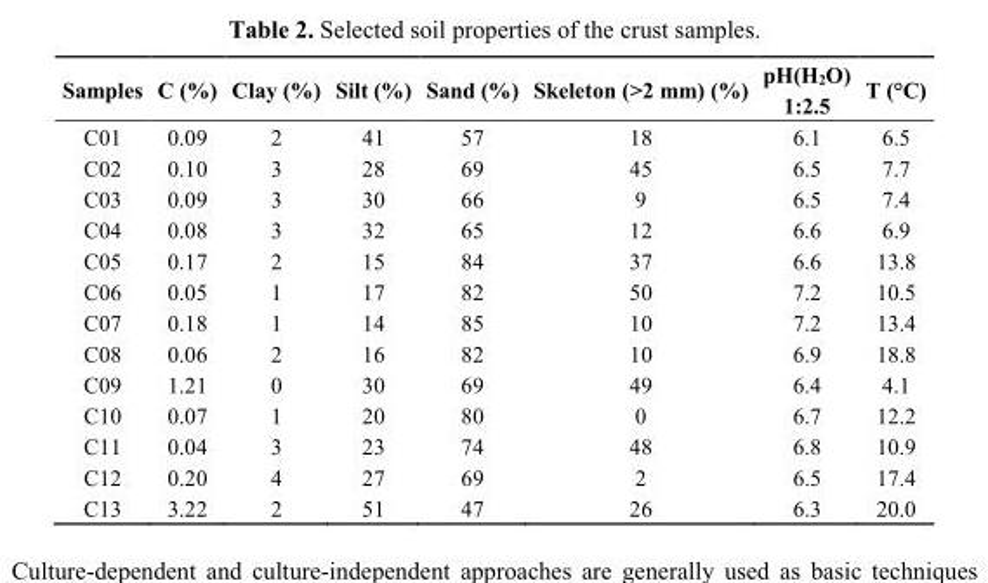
<table><thead><tr><td>Samples</td><td>C (%)</td><td>Clay (%)</td><td>Silt (%)</td><td>Sand (%)</td><td>Skeleton (&gt;2 mm) (%)</td><td>pH(H<sub>2</sub>O) 1:2.5</td><td>T (°C)</td></tr></thead><tbody><tr><td>C01</td><td>0.09</td><td>2</td><td>41</td><td>57</td><td>18</td><td>6.1</td><td>6.5</td></tr><tr><td>C02</td><td>0.10</td><td>3</td><td>28</td><td>69</td><td>45</td><td>6.5</td><td>7.7</td></tr><tr><td>C03</td><td>0.09</td><td>3</td><td>30</td><td>66</td><td>9</td><td>6.5</td><td>7.4</td></tr><tr><td>C04</td><td>0.08</td><td>3</td><td>32</td><td>65</td><td>12</td><td>6.6</td><td>6.9</td></tr><tr><td>C05</td><td>0.17</td><td>2</td><td>15</td><td>84</td><td>37</td><td>6.6</td><td>13.8</td></tr><tr><td>C06</td><td>0.05</td><td>1</td><td>17</td><td>82</td><td>50</td><td>7.2</td><td>10.5</td></tr><tr><td>C07</td><td>0.18</td><td>1</td><td>14</td><td>85</td><td>10</td><td>7.2</td><td>13.4</td></tr><tr><td>C08</td><td>0.06</td><td>2</td><td>16</td><td>82</td><td>10</td><td>6.9</td><td>18.8</td></tr><tr><td>C09</td><td>1.21</td><td>0</td><td>30</td><td>69</td><td>49</td><td>6.4</td><td>4.1</td></tr><tr><td>C10</td><td>0.07</td><td>1</td><td>20</td><td>80</td><td>0</td><td>6.7</td><td>12.2</td></tr><tr><td>C11</td><td>0.04</td><td>3</td><td>23</td><td>74</td><td>48</td><td>6.8</td><td>10.9</td></tr><tr><td>C12</td><td>0.20</td><td>4</td><td>27</td><td>69</td><td>2</td><td>6.5</td><td>17.4</td></tr><tr><td>C13</td><td>3.22</td><td>2</td><td>51</td><td>47</td><td>26</td><td>6.3</td><td>20.0</td></tr></tbody></table>